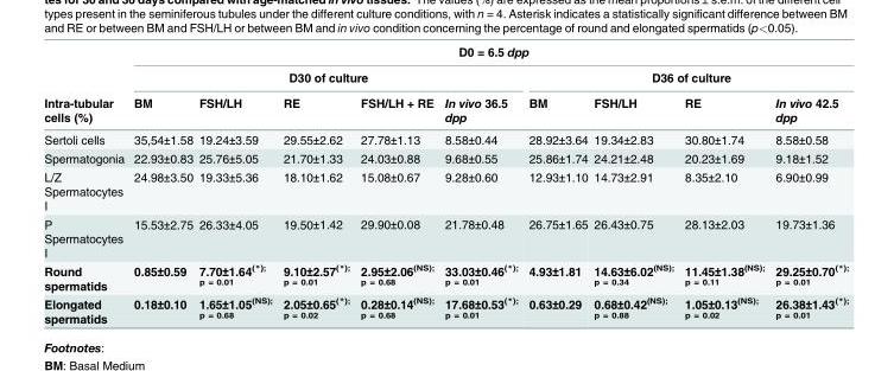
<table><thead><tr><td rowspan="3">Intra-tubular cells (%)</td><td colspan="9">D0 = 6.5 dpp</td></tr><tr><td colspan="5">D30 of culture</td><td colspan="4">D36 of culture</td></tr><tr><td>BM</td><td>FSH/LH</td><td>RE</td><td>FSH/LH + RE</td><td>In vivo 36.5 dpp</td><td>BM</td><td>FSH/LH</td><td>RE</td><td>In vivo 42.5 dpp</td></tr></thead><tbody><tr><td>Sertoli cells</td><td>35,54±1.58</td><td>19.24±3.59</td><td>29.55±2.62</td><td>27.78±1.13</td><td>8.58±0.44</td><td>28.92±3.64</td><td>19.34±2.83</td><td>30.80±1.74</td><td>8.58±0.58</td></tr><tr><td>Spermatogonia</td><td>22.93±0.83</td><td>25.76±5.05</td><td>21.70±1.33</td><td>24.03±0.88</td><td>9.68±0.55</td><td>25.86±1.74</td><td>24.21±2.48</td><td>20.23±1.69</td><td>9.18±1.52</td></tr><tr><td>L/Z Spermatocytes I</td><td>24.98±3.50</td><td>19.33±5.36</td><td>18.10±1.62</td><td>15.08±0.67</td><td>9.28±0.60</td><td>12.93±1.10</td><td>14.73±2.91</td><td>8.35±2.10</td><td>6.90±0.99</td></tr><tr><td>P Spermatocytes I</td><td>15.53±2.75</td><td>26.33±4.05</td><td>19.50±1.42</td><td>29.90±0.08</td><td>21.78±0.48</td><td>26.75±1.65</td><td>26.43±0.75</td><td>28.13±2.03</td><td>19.73±1.36</td></tr><tr><td>Round spermatids</td><td>0.85±0.59</td><td>7.70±1.64<sup>(*); p = 0.01</sup></td><td>9.10±2.57<sup>(*); p = 0.01</sup></td><td>2.95±2.06<sup>(NS); p = 0.68</sup></td><td>33.03±0.46<sup>(*); p = 0.01</sup></td><td>4.93±1.81</td><td>14.63±6.02<sup>(NS); p = 0.34</sup></td><td>11.45±1.38<sup>(NS); p = 0.11</sup></td><td>29.25±0.70<sup>(*); p = 0.01</sup></td></tr><tr><td>Elongated spermatids</td><td>0.18±0.10</td><td>1.65±1.05<sup>(NS); p = 0.68</sup></td><td>2.05±0.65<sup>(*); p = 0.02</sup></td><td>0.28±0.14<sup>(NS); p = 0.68</sup></td><td>17.68±0.53<sup>(*); p = 0.01</sup></td><td>0.63±0.29</td><td>0.68±0.42<sup>(NS); p = 0.88</sup></td><td>1.05±0.13<sup>(NS); p = 0.02</sup></td><td>26.38±1.43<sup>(*); p = 0.01</sup></td></tr></tbody></table>